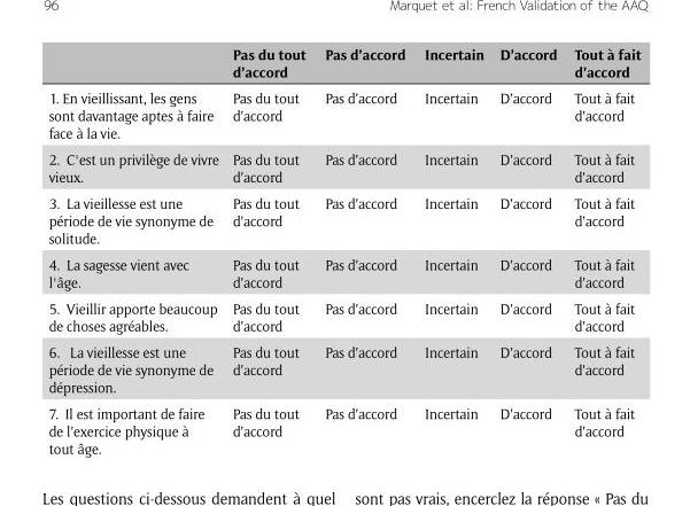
<table><thead><tr><td></td><td>Pas du tout d’accord</td><td>Pas d’accord</td><td>Incertain</td><td>D’accord</td><td>Tout à fait d’accord</td></tr></thead><tbody><tr><td>1. En vieillissant, les gens sont davantage aptes à faire face à la vie.</td><td>Pas du tout d’accord</td><td>Pas d’accord</td><td>Incertain</td><td>D’accord</td><td>Tout à fait d’accord</td></tr><tr><td>2. C&#x27;est un privilège de vivre vieux.</td><td>Pas du tout d’accord</td><td>Pas d’accord</td><td>Incertain</td><td>D’accord</td><td>Tout à fait d’accord</td></tr><tr><td>3. La vieillesse est une période de vie synonyme de solitude.</td><td>Pas du tout d’accord</td><td>Pas d’accord</td><td>Incertain</td><td>D’accord</td><td>Tout à fait d’accord</td></tr><tr><td>4. La sagesse vient avec l&#x27;âge.</td><td>Pas du tout d’accord</td><td>Pas d’accord</td><td>Incertain</td><td>D’accord</td><td>Tout à fait d’accord</td></tr><tr><td>5. Vieillir apporte beaucoup de choses agréables.</td><td>Pas du tout d’accord</td><td>Pas d’accord</td><td>Incertain</td><td>D’accord</td><td>Tout à fait d’accord</td></tr><tr><td>6. La vieillesse est une période de vie synonyme de dépression.</td><td>Pas du tout d’accord</td><td>Pas d’accord</td><td>Incertain</td><td>D’accord</td><td>Tout à fait d’accord</td></tr><tr><td>7. Il est important de faire de l’exercice physique à tout âge.</td><td>Pas du tout d’accord</td><td>Pas d’accord</td><td>Incertain</td><td>D’accord</td><td>Tout à fait d’accord</td></tr></tbody></table>